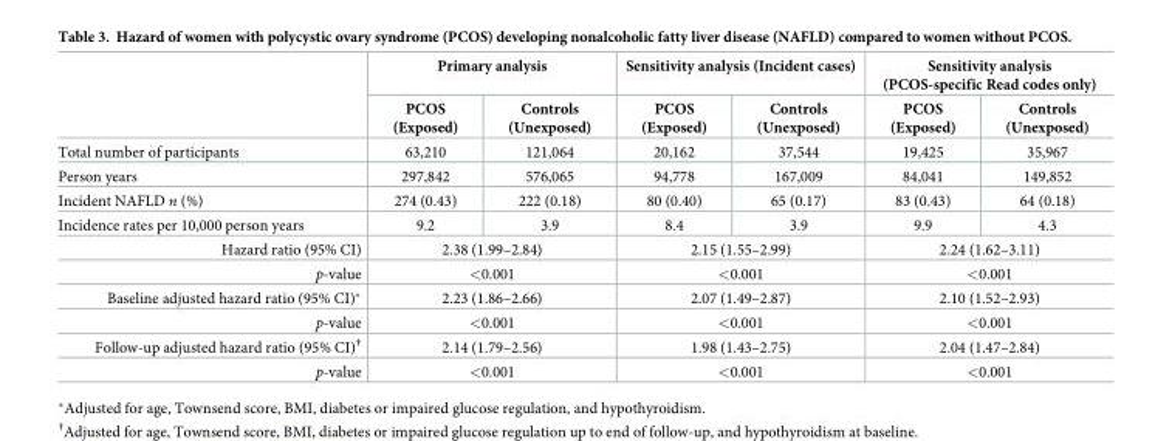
<table><thead><tr><td rowspan="2"></td><td colspan="2">Primary analysis</td><td colspan="2">Sensitivity analysis (Incident cases)</td><td colspan="2">Sensitivity analysis (PCOS-specific Read codes only)</td></tr><tr><td>PCOS (Exposed)</td><td>Controls (Unexposed)</td><td>PCOS (Exposed)</td><td>Controls (Unexposed)</td><td>PCOS (Exposed)</td><td>Controls (Unexposed)</td></tr></thead><tbody><tr><td>Total number of participants</td><td>63,210</td><td>121,064</td><td>20,162</td><td>37,544</td><td>19,425</td><td>35,967</td></tr><tr><td>Person years</td><td>297,842</td><td>576,065</td><td>94,778</td><td>167,009</td><td>84,041</td><td>149,852</td></tr><tr><td>Incident NAFLD n (%)</td><td>274 (0.43)</td><td>222 (0.18)</td><td>80 (0.40)</td><td>65 (0.17)</td><td>83 (0.43)</td><td>64 (0.18)</td></tr><tr><td>Incidence rates per 10,000 person years</td><td>9.2</td><td>3.9</td><td>8.4</td><td>3.9</td><td>9.9</td><td>4.3</td></tr><tr><td>Hazard ratio (95% CI)</td><td colspan="2">2.38 (1.99–2.84)</td><td colspan="2">2.15 (1.55–2.99)</td><td colspan="2">2.24 (1.62–3.11)</td></tr><tr><td>p-value</td><td colspan="2">&lt;0.001</td><td colspan="2">&lt;0.001</td><td colspan="2">&lt;0.001</td></tr><tr><td>Baseline adjusted hazard ratio (95% CI)*</td><td colspan="2">2.23 (1.86–2.66)</td><td colspan="2">2.07 (1.49–2.87)</td><td colspan="2">2.10 (1.52–2.93)</td></tr><tr><td>p-value</td><td colspan="2">&lt;0.001</td><td colspan="2">&lt;0.001</td><td colspan="2">&lt;0.001</td></tr><tr><td>Follow-up adjusted hazard ratio (95% CI)<sup>†</sup></td><td colspan="2">2.14 (1.79–2.56)</td><td colspan="2">1.98 (1.43–2.75)</td><td colspan="2">2.04 (1.47–2.84)</td></tr><tr><td>p-value</td><td colspan="2">&lt;0.001</td><td colspan="2">&lt;0.001</td><td colspan="2">&lt;0.001</td></tr></tbody></table>